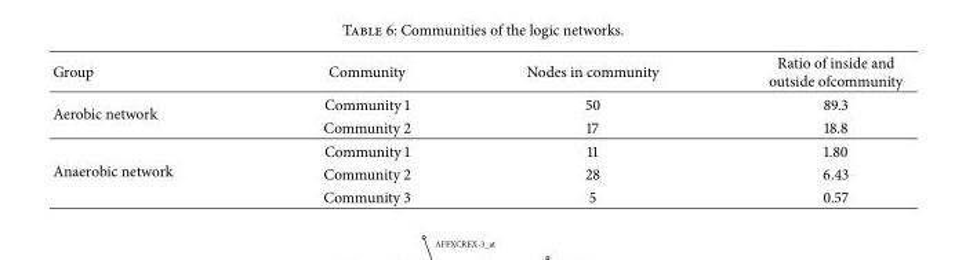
<table><thead><tr><td>Group</td><td>Community</td><td>Nodes in community</td><td>Ratio of inside and outside ofcommunity</td></tr></thead><tbody><tr><td rowspan="2">Aerobic network</td><td>Community 1</td><td>50</td><td>89.3</td></tr><tr><td>Community 2</td><td>17</td><td>18.8</td></tr><tr><td rowspan="3">Anaerobic network</td><td>Community 1</td><td>11</td><td>1.80</td></tr><tr><td>Community 2</td><td>28</td><td>6.43</td></tr><tr><td>Community 3</td><td>5</td><td>0.57</td></tr></tbody></table>